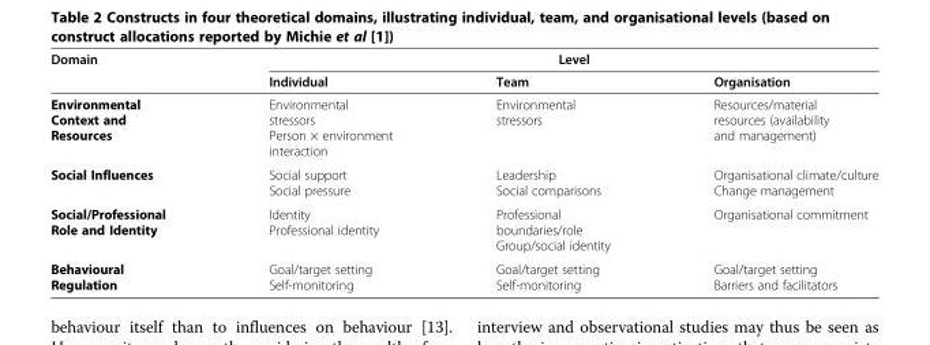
<table><thead><tr><td rowspan="2">Domain</td><td colspan="3">Level</td></tr><tr><td>Individual</td><td>Team</td><td>Organisation</td></tr></thead><tbody><tr><td>Environmental Context and Resources</td><td>Environmental stressors Person × environment interaction</td><td>Environmental stressors</td><td>Resources/material resources (availability and management)</td></tr><tr><td>Social Influences</td><td>Social support Social pressure</td><td>Leadership Social comparisons</td><td>Organisational climate/culture Change management</td></tr><tr><td>Social/Professional Role and Identity</td><td>Identity Professional identity</td><td>Professional boundaries/role Group/social identity</td><td>Organisational commitment</td></tr><tr><td>Behavioural Regulation</td><td>Goal/target setting Self-monitoring</td><td>Goal/target setting Self-monitoring</td><td>Goal/target setting Barriers and facilitators</td></tr></tbody></table>